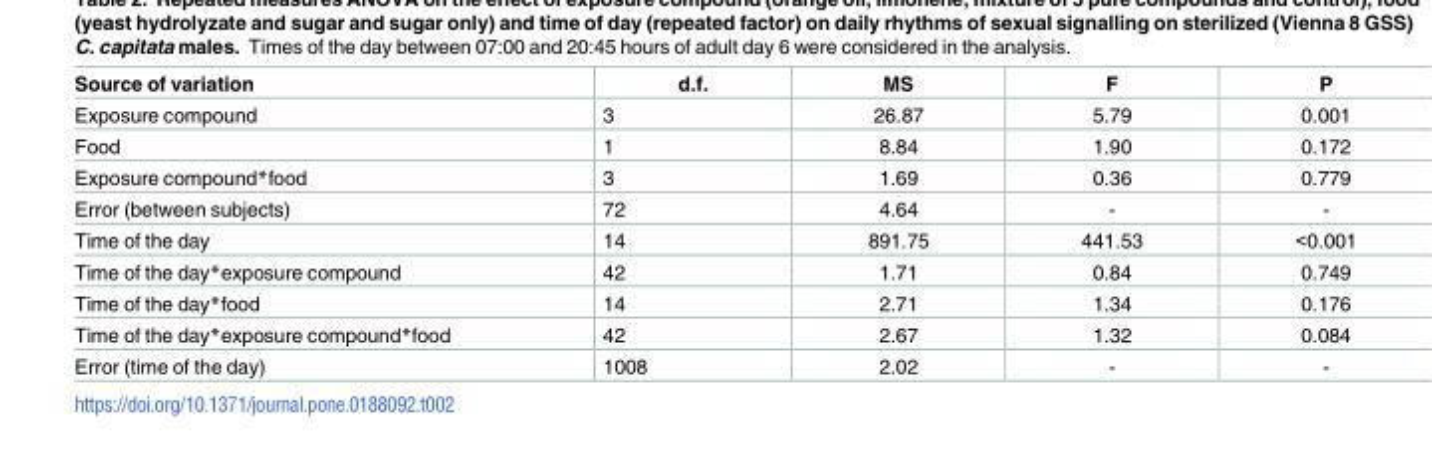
<table><thead><tr><td>Source of variation</td><td>d.f.</td><td>MS</td><td>F</td><td>P</td></tr></thead><tbody><tr><td>Exposure compound</td><td>3</td><td>26.87</td><td>5.79</td><td>0.001</td></tr><tr><td>Food</td><td>1</td><td>8.84</td><td>1.90</td><td>0.172</td></tr><tr><td>Exposure compound*food</td><td>3</td><td>1.69</td><td>0.36</td><td>0.779</td></tr><tr><td>Error (between subjects)</td><td>72</td><td>4.64</td><td>-</td><td>-</td></tr><tr><td>Time of the day</td><td>14</td><td>891.75</td><td>441.53</td><td>&lt;0.001</td></tr><tr><td>Time of the day*exposure compound</td><td>42</td><td>1.71</td><td>0.84</td><td>0.749</td></tr><tr><td>Time of the day*food</td><td>14</td><td>2.71</td><td>1.34</td><td>0.176</td></tr><tr><td>Time of the day*exposure compound*food</td><td>42</td><td>2.67</td><td>1.32</td><td>0.084</td></tr><tr><td>Error (time of the day)</td><td>1008</td><td>2.02</td><td>-</td><td>-</td></tr></tbody></table>